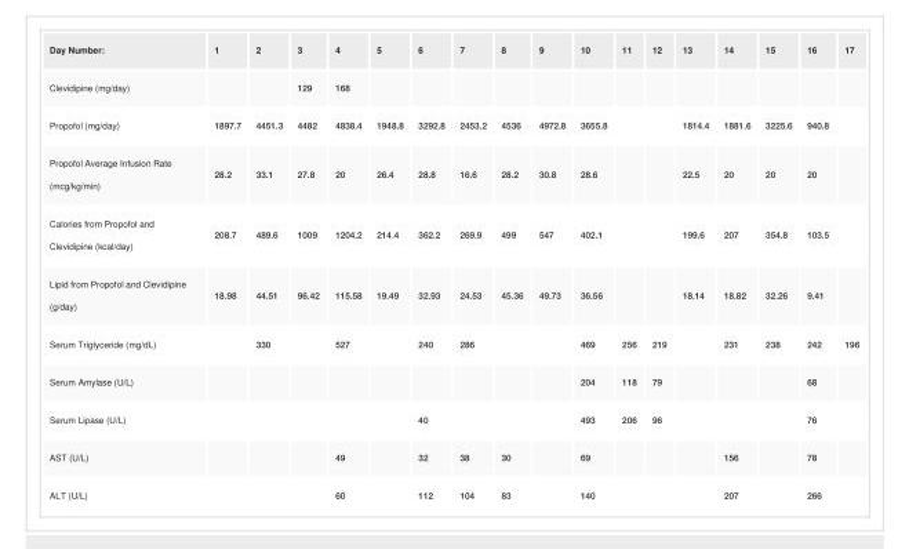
<table><tbody><tr><td>Day Number:</td><td>1</td><td>2</td><td>3</td><td>4</td><td>5</td><td>6</td><td>7</td><td>8</td><td>9</td><td>10</td><td>11</td><td>12</td><td>13</td><td>14</td><td>15</td><td>16</td><td>17</td></tr><tr><td>Clevidipine (mg/day)</td><td></td><td></td><td>129</td><td>168</td><td></td><td></td><td></td><td></td><td></td><td></td><td></td><td></td><td></td><td></td><td></td><td></td><td></td></tr><tr><td>Propofol (mg/day)</td><td>1897.7</td><td>4451.3</td><td>4482</td><td>4838.4</td><td>1948.8</td><td>3292.8</td><td>2453.2</td><td>4536</td><td>4972.8</td><td>3655.8</td><td></td><td></td><td>1814.4</td><td>1881.6</td><td>3225.6</td><td>940.8</td><td></td></tr><tr><td>Propofol Average Infusion Rate (mcg/kg/min)</td><td>28.2</td><td>33.1</td><td>27.8</td><td>20</td><td>26.4</td><td>28.8</td><td>16.6</td><td>28.2</td><td>30.8</td><td>28.6</td><td></td><td></td><td>22.5</td><td>20</td><td>20</td><td>20</td><td></td></tr><tr><td>Calories from Propofol and Clevidipine (kcal/day)</td><td>208.7</td><td>489.6</td><td>1009</td><td>1204.2</td><td>214.4</td><td>362.2</td><td>269.9</td><td>499</td><td>547</td><td>402.1</td><td></td><td></td><td>199.6</td><td>207</td><td>354.8</td><td>103.5</td><td></td></tr><tr><td>Lipid from Propofol and Clevidipine (g/day)</td><td>18.98</td><td>44.51</td><td>96.42</td><td>115.58</td><td>19.49</td><td>32.93</td><td>24.53</td><td>45.36</td><td>49.73</td><td>36.56</td><td></td><td></td><td>18.14</td><td>18.82</td><td>32.26</td><td>9.41</td><td></td></tr><tr><td>Serum Triglyceride (mg/dL)</td><td></td><td>330</td><td></td><td>527</td><td></td><td>240</td><td>286</td><td></td><td></td><td>469</td><td>256</td><td>219</td><td></td><td>231</td><td>238</td><td>242</td><td>196</td></tr><tr><td>Serum Amylase (U/L)</td><td></td><td></td><td></td><td></td><td></td><td></td><td></td><td></td><td></td><td>204</td><td>118</td><td>79</td><td></td><td></td><td></td><td>68</td><td></td></tr><tr><td>Serum Lipase (U/L)</td><td></td><td></td><td></td><td></td><td></td><td>40</td><td></td><td></td><td></td><td>493</td><td>206</td><td>96</td><td></td><td></td><td></td><td>76</td><td></td></tr><tr><td>AST (U/L)</td><td></td><td></td><td></td><td>49</td><td></td><td>32</td><td>38</td><td>30</td><td></td><td>69</td><td></td><td></td><td></td><td>156</td><td></td><td>78</td><td></td></tr><tr><td>ALT (U/L)</td><td></td><td></td><td></td><td>60</td><td></td><td>112</td><td>104</td><td>83</td><td></td><td>140</td><td></td><td></td><td></td><td>207</td><td></td><td>266</td><td></td></tr></tbody></table>